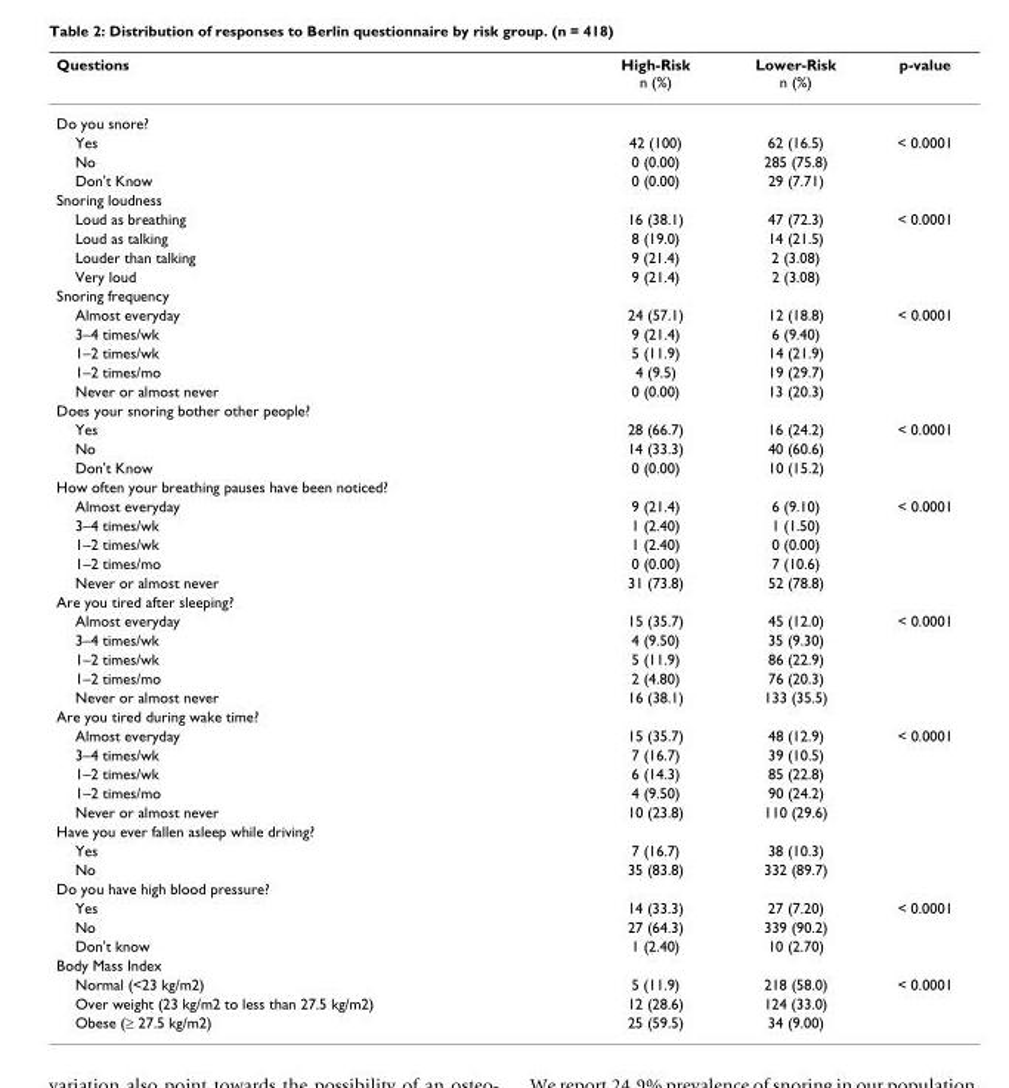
<table><thead><tr><td>Questions</td><td>High-Risk n (%)</td><td>Lower-Risk n (%)</td><td>p-value</td></tr></thead><tbody><tr><td colspan="4">Do you snore?</td></tr><tr><td>Yes</td><td>42 (100)</td><td>62 (16.5)</td><td>&lt; 0.0001</td></tr><tr><td>No</td><td>0 (0.00)</td><td>285 (75.8)</td><td></td></tr><tr><td>Don&#x27;t Know</td><td>0 (0.00)</td><td>29 (7.71)</td><td></td></tr><tr><td colspan="4">Snoring loudness</td></tr><tr><td>Loud as breathing</td><td>16 (38.1)</td><td>47 (72.3)</td><td>&lt; 0.0001</td></tr><tr><td>Loud as talking</td><td>8 (19.0)</td><td>14 (21.5)</td><td></td></tr><tr><td>Louder than talking</td><td>9 (21.4)</td><td>2 (3.08)</td><td></td></tr><tr><td>Very loud</td><td>9 (21.4)</td><td>2 (3.08)</td><td></td></tr><tr><td colspan="4">Snoring frequency</td></tr><tr><td>Almost everyday</td><td>24 (57.1)</td><td>12 (18.8)</td><td>&lt; 0.0001</td></tr><tr><td>3–4 times/wk</td><td>9 (21.4)</td><td>6 (9.40)</td><td></td></tr><tr><td>1–2 times/wk</td><td>5 (11.9)</td><td>14 (21.9)</td><td></td></tr><tr><td>1–2 times/mo</td><td>4 (9.5)</td><td>19 (29.7)</td><td></td></tr><tr><td>Never or almost never</td><td>0 (0.00)</td><td>13 (20.3)</td><td></td></tr><tr><td colspan="4">Does your snoring bother other people?</td></tr><tr><td>Yes</td><td>28 (66.7)</td><td>16 (24.2)</td><td>&lt; 0.0001</td></tr><tr><td>No</td><td>14 (33.3)</td><td>40 (60.6)</td><td></td></tr><tr><td>Don&#x27;t Know</td><td>0 (0.00)</td><td>10 (15.2)</td><td></td></tr><tr><td colspan="4">How often your breathing pauses have been noticed?</td></tr><tr><td>Almost everyday</td><td>9 (21.4)</td><td>6 (9.10)</td><td>&lt; 0.0001</td></tr><tr><td>3–4 times/wk</td><td>1 (2.40)</td><td>1 (1.50)</td><td></td></tr><tr><td>1–2 times/wk</td><td>1 (2.40)</td><td>0 (0.00)</td><td></td></tr><tr><td>1–2 times/mo</td><td>0 (0.00)</td><td>7 (10.6)</td><td></td></tr><tr><td>Never or almost never</td><td>31 (73.8)</td><td>52 (78.8)</td><td></td></tr><tr><td colspan="4">Are you tired after sleeping?</td></tr><tr><td>Almost everyday</td><td>15 (35.7)</td><td>45 (12.0)</td><td>&lt; 0.0001</td></tr><tr><td>3–4 times/wk</td><td>4 (9.50)</td><td>35 (9.30)</td><td></td></tr><tr><td>1–2 times/wk</td><td>5 (11.9)</td><td>86 (22.9)</td><td></td></tr><tr><td>1–2 times/mo</td><td>2 (4.80)</td><td>76 (20.3)</td><td></td></tr><tr><td>Never or almost never</td><td>16 (38.1)</td><td>133 (35.5)</td><td></td></tr><tr><td colspan="4">Are you tired during wake time?</td></tr><tr><td>Almost everyday</td><td>15 (35.7)</td><td>48 (12.9)</td><td>&lt; 0.0001</td></tr><tr><td>3–4 times/wk</td><td>7 (16.7)</td><td>39 (10.5)</td><td></td></tr><tr><td>1–2 times/wk</td><td>6 (14.3)</td><td>85 (22.8)</td><td></td></tr><tr><td>1–2 times/mo</td><td>4 (9.50)</td><td>90 (24.2)</td><td></td></tr><tr><td>Never or almost never</td><td>10 (23.8)</td><td>110 (29.6)</td><td></td></tr><tr><td colspan="4">Have you ever fallen asleep while driving?</td></tr><tr><td>Yes</td><td>7 (16.7)</td><td>38 (10.3)</td><td></td></tr><tr><td>No</td><td>35 (83.8)</td><td>332 (89.7)</td><td></td></tr><tr><td colspan="4">Do you have high blood pressure?</td></tr><tr><td>Yes</td><td>14 (33.3)</td><td>27 (7.20)</td><td>&lt; 0.0001</td></tr><tr><td>No</td><td>27 (64.3)</td><td>339 (90.2)</td><td></td></tr><tr><td>Don&#x27;t know</td><td>1 (2.40)</td><td>10 (2.70)</td><td></td></tr><tr><td colspan="4">Body Mass Index</td></tr><tr><td>Normal (&lt;23 kg/m2)</td><td>5 (11.9)</td><td>218 (58.0)</td><td>&lt; 0.0001</td></tr><tr><td>Over weight (23 kg/m2 to less than 27.5 kg/m2)</td><td>12 (28.6)</td><td>124 (33.0)</td><td></td></tr><tr><td>Obese (≥ 27.5 kg/m2)</td><td>25 (59.5)</td><td>34 (9.00)</td><td></td></tr></tbody></table>